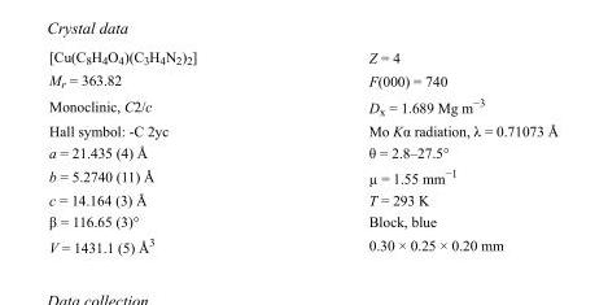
<table><tbody><tr><td>[Cu(C<sub>8</sub>H<sub>4</sub>O<sub>4</sub>)(C<sub>3</sub>H<sub>4</sub>N<sub>2</sub>)<sub>2</sub>]</td><td>Z = 4</td></tr><tr><td>M<sub>r</sub> = 363.82</td><td>F(000) = 740</td></tr><tr><td>Monoclinic, C2/c</td><td>D<sub>x</sub> = 1.689 Mg m<sup>−3</sup></td></tr><tr><td>Hall symbol: -C 2yc</td><td>Mo Kα radiation, λ = 0.71073 Å</td></tr><tr><td>a = 21.435 (4) Å</td><td>θ = 2.8–27.5°</td></tr><tr><td>b = 5.2740 (11) Å</td><td>µ = 1.55 mm<sup>−1</sup></td></tr><tr><td>c = 14.164 (3) Å</td><td>T = 293 K</td></tr><tr><td>β = 116.65 (3)°</td><td>Block, blue</td></tr><tr><td>V = 1431.1 (5) Å<sup>3</sup></td><td>0.30 × 0.25 × 0.20 mm</td></tr></tbody></table>